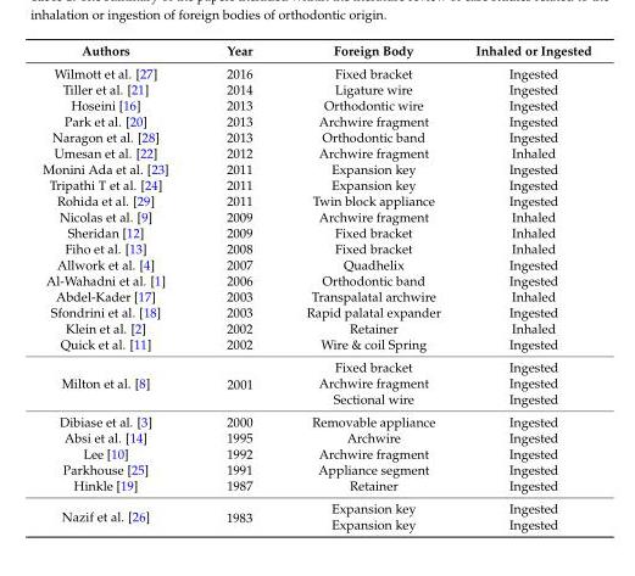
<table><thead><tr><td>Authors</td><td>Year</td><td>Foreign Body</td><td>Inhaled or Ingested</td></tr></thead><tbody><tr><td>Wilmott et al. [27]</td><td>2016</td><td>Fixed bracket</td><td>Ingested</td></tr><tr><td>Tiller et al. [21]</td><td>2014</td><td>Ligature wire</td><td>Ingested</td></tr><tr><td>Hoseini [16]</td><td>2013</td><td>Orthodontic wire</td><td>Ingested</td></tr><tr><td>Park et al. [20]</td><td>2013</td><td>Archwire fragment</td><td>Ingested</td></tr><tr><td>Naragon et al. [28]</td><td>2013</td><td>Orthodontic band</td><td>Ingested</td></tr><tr><td>Umesan et al. [22]</td><td>2012</td><td>Archwire fragment</td><td>Inhaled</td></tr><tr><td>Monini Ada et al. [23]</td><td>2011</td><td>Expansion key</td><td>Ingested</td></tr><tr><td>Tripathi T et al. [24]</td><td>2011</td><td>Expansion key</td><td>Ingested</td></tr><tr><td>Rohida et al. [29]</td><td>2011</td><td>Twin block appliance</td><td>Ingested</td></tr><tr><td>Nicolas et al. [9]</td><td>2009</td><td>Archwire fragment</td><td>Inhaled</td></tr><tr><td>Sheridan [12]</td><td>2009</td><td>Fixed bracket</td><td>Inhaled</td></tr><tr><td>Fiho et al. [13]</td><td>2008</td><td>Fixed bracket</td><td>Inhaled</td></tr><tr><td>Allwork et al. [4]</td><td>2007</td><td>Quadhelix</td><td>Ingested</td></tr><tr><td>Al-Wahadni et al. [1]</td><td>2006</td><td>Orthodontic band</td><td>Ingested</td></tr><tr><td>Abdel-Kader [17]</td><td>2003</td><td>Transpalatal archwire</td><td>Inhaled</td></tr><tr><td>Sfondrini et al. [18]</td><td>2003</td><td>Rapid palatal expander</td><td>Ingested</td></tr><tr><td>Klein et al. [2]</td><td>2002</td><td>Retainer</td><td>Inhaled</td></tr><tr><td>Quick et al. [11]</td><td>2002</td><td>Wire &amp; coil Spring</td><td>Ingested</td></tr><tr><td rowspan="3">Milton et al. [8]</td><td rowspan="3">2001</td><td>Fixed bracket</td><td>Ingested</td></tr><tr><td>Archwire fragment</td><td>Ingested</td></tr><tr><td>Sectional wire</td><td>Ingested</td></tr><tr><td>Dibiase et al. [3]</td><td>2000</td><td>Removable appliance</td><td>Ingested</td></tr><tr><td>Absi et al. [14]</td><td>1995</td><td>Archwire</td><td>Ingested</td></tr><tr><td>Lee [10]</td><td>1992</td><td>Archwire fragment</td><td>Ingested</td></tr><tr><td>Parkhouse [25]</td><td>1991</td><td>Appliance segment</td><td>Ingested</td></tr><tr><td>Hinkle [19]</td><td>1987</td><td>Retainer</td><td>Ingested</td></tr><tr><td rowspan="2">Nazif et al. [26]</td><td rowspan="2">1983</td><td>Expansion key</td><td>Ingested</td></tr><tr><td>Expansion key</td><td>Ingested</td></tr></tbody></table>